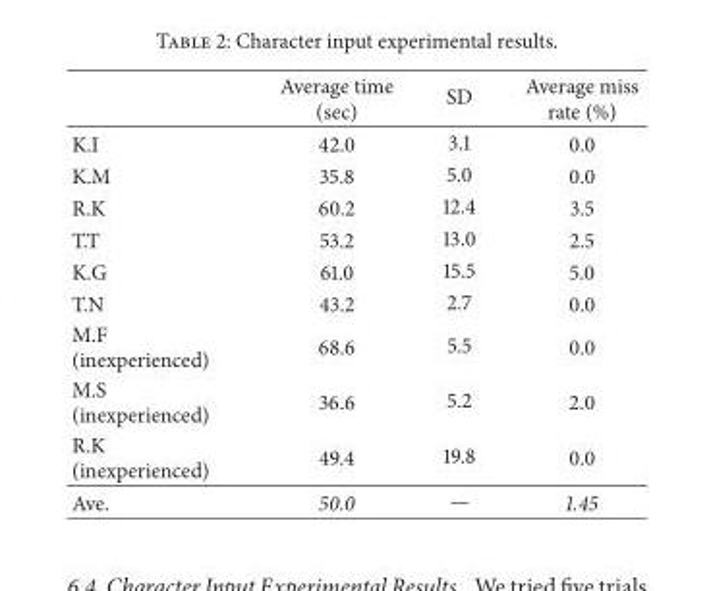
<table><thead><tr><td></td><td>Average time (sec)</td><td>SD</td><td>Average miss rate (%)</td></tr></thead><tbody><tr><td>K.I</td><td>42.0</td><td>3.1</td><td>0.0</td></tr><tr><td>K.M</td><td>35.8</td><td>5.0</td><td>0.0</td></tr><tr><td>R.K</td><td>60.2</td><td>12.4</td><td>3.5</td></tr><tr><td>T.T</td><td>53.2</td><td>13.0</td><td>2.5</td></tr><tr><td>K.G</td><td>61.0</td><td>15.5</td><td>5.0</td></tr><tr><td>T.N</td><td>43.2</td><td>2.7</td><td>0.0</td></tr><tr><td>M.F (inexperienced)</td><td>68.6</td><td>5.5</td><td>0.0</td></tr><tr><td>M.S (inexperienced)</td><td>36.6</td><td>5.2</td><td>2.0</td></tr><tr><td>R.K (inexperienced)</td><td>49.4</td><td>19.8</td><td>0.0</td></tr><tr><td>Ave.</td><td>50.0</td><td>—</td><td>1.45</td></tr></tbody></table>